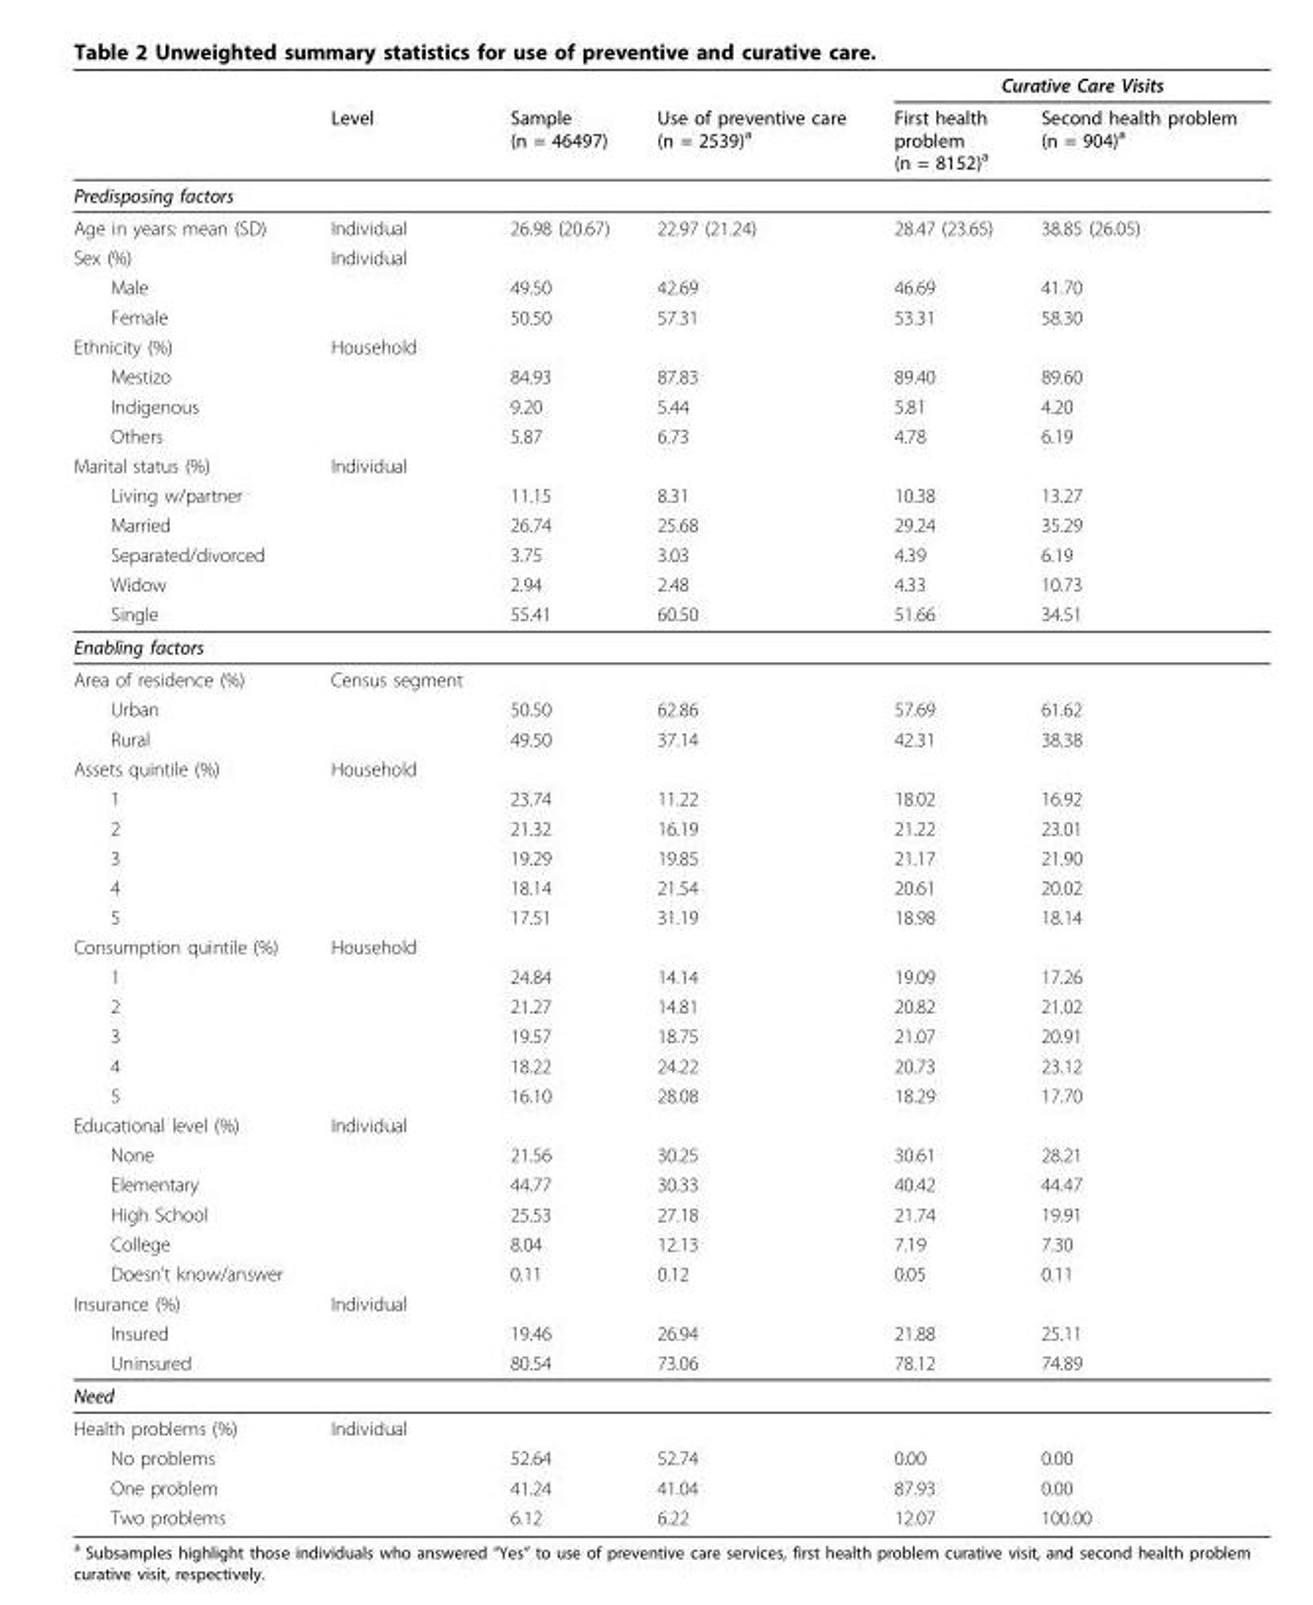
<table><thead><tr><td rowspan="2"></td><td rowspan="2">Level</td><td rowspan="2">Sample (n = 46497)</td><td rowspan="2">Use of preventive care (n = 2539)<sup>a</sup></td><td colspan="2">Curative Care Visits</td></tr><tr><td>First health problem (n = 8152)<sup>a</sup></td><td>Second health problem (n = 904)<sup>a</sup></td></tr></thead><tbody><tr><td colspan="6">Predisposing factors</td></tr><tr><td>Age in years: mean (SD)</td><td>Individual</td><td>26.98 (20.67)</td><td>22.97 (21.24)</td><td>28.47 (23.65)</td><td>38.85 (26.05)</td></tr><tr><td>Sex (%)</td><td>Individual</td><td></td><td></td><td></td><td></td></tr><tr><td>Male</td><td></td><td>49.50</td><td>42.69</td><td>46.69</td><td>41.70</td></tr><tr><td>Female</td><td></td><td>50.50</td><td>57.31</td><td>53.31</td><td>58.30</td></tr><tr><td>Ethnicity (%)</td><td>Household</td><td></td><td></td><td></td><td></td></tr><tr><td>Mestizo</td><td></td><td>84.93</td><td>87.83</td><td>89.40</td><td>89.60</td></tr><tr><td>Indigenous</td><td></td><td>9.20</td><td>5.44</td><td>5.81</td><td>4.20</td></tr><tr><td>Others</td><td></td><td>5.87</td><td>6.73</td><td>4.78</td><td>6.19</td></tr><tr><td>Marital status (%)</td><td>Individual</td><td></td><td></td><td></td><td></td></tr><tr><td>Living w/partner</td><td></td><td>11.15</td><td>8.31</td><td>10.38</td><td>13.27</td></tr><tr><td>Married</td><td></td><td>26.74</td><td>25.68</td><td>29.24</td><td>35.29</td></tr><tr><td>Separated/divorced</td><td></td><td>3.75</td><td>3.03</td><td>4.39</td><td>6.19</td></tr><tr><td>Widow</td><td></td><td>2.94</td><td>2.48</td><td>4.33</td><td>10.73</td></tr><tr><td>Single</td><td></td><td>55.41</td><td>60.50</td><td>51.66</td><td>34.51</td></tr><tr><td colspan="6">Enabling factors</td></tr><tr><td>Area of residence (%)</td><td>Census segment</td><td></td><td></td><td></td><td></td></tr><tr><td>Urban</td><td></td><td>50.50</td><td>62.86</td><td>57.69</td><td>61.62</td></tr><tr><td>Rural</td><td></td><td>49.50</td><td>37.14</td><td>42.31</td><td>38.38</td></tr><tr><td>Assets quintile (%)</td><td>Household</td><td></td><td></td><td></td><td></td></tr><tr><td>1</td><td></td><td>23.74</td><td>11.22</td><td>18.02</td><td>16.92</td></tr><tr><td>2</td><td></td><td>21.32</td><td>16.19</td><td>21.22</td><td>23.01</td></tr><tr><td>3</td><td></td><td>19.29</td><td>19.85</td><td>21.17</td><td>21.90</td></tr><tr><td>4</td><td></td><td>18.14</td><td>21.54</td><td>20.61</td><td>20.02</td></tr><tr><td>5</td><td></td><td>17.51</td><td>31.19</td><td>18.98</td><td>18.14</td></tr><tr><td>Consumption quintile (%)</td><td>Household</td><td></td><td></td><td></td><td></td></tr><tr><td>1</td><td></td><td>24.84</td><td>14.14</td><td>19.09</td><td>17.26</td></tr><tr><td>2</td><td></td><td>21.27</td><td>14.81</td><td>20.82</td><td>21.02</td></tr><tr><td>3</td><td></td><td>19.57</td><td>18.75</td><td>21.07</td><td>20.91</td></tr><tr><td>4</td><td></td><td>18.22</td><td>24.22</td><td>20.73</td><td>23.12</td></tr><tr><td>5</td><td></td><td>16.10</td><td>28.08</td><td>18.29</td><td>17.70</td></tr><tr><td>Educational level (%)</td><td>Individual</td><td></td><td></td><td></td><td></td></tr><tr><td>None</td><td></td><td>21.56</td><td>30.25</td><td>30.61</td><td>28.21</td></tr><tr><td>Elementary</td><td></td><td>44.77</td><td>30.33</td><td>40.42</td><td>44.47</td></tr><tr><td>High School</td><td></td><td>25.53</td><td>27.18</td><td>21.74</td><td>19.91</td></tr><tr><td>College</td><td></td><td>8.04</td><td>12.13</td><td>7.19</td><td>7.30</td></tr><tr><td>Doesn’t know/answer</td><td></td><td>0.11</td><td>0.12</td><td>0.05</td><td>0.11</td></tr><tr><td>Insurance (%)</td><td>Individual</td><td></td><td></td><td></td><td></td></tr><tr><td>Insured</td><td></td><td>19.46</td><td>26.94</td><td>21.88</td><td>25.11</td></tr><tr><td>Uninsured</td><td></td><td>80.54</td><td>73.06</td><td>78.12</td><td>74.89</td></tr><tr><td colspan="6">Need</td></tr><tr><td>Health problems (%)</td><td>Individual</td><td></td><td></td><td></td><td></td></tr><tr><td>No problems</td><td></td><td>52.64</td><td>52.74</td><td>0.00</td><td>0.00</td></tr><tr><td>One problem</td><td></td><td>41.24</td><td>41.04</td><td>87.93</td><td>0.00</td></tr><tr><td>Two problems</td><td></td><td>6.12</td><td>6.22</td><td>12.07</td><td>100.00</td></tr></tbody></table>